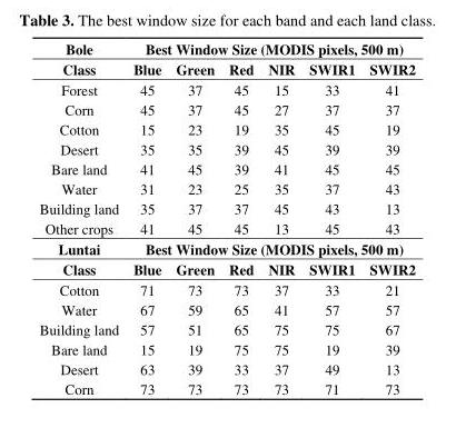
<table><thead><tr><td rowspan="2">Bole Class</td><td colspan="6">Best Window Size (MODIS pixels, 500 m)</td></tr><tr><td>Blue</td><td>Green</td><td>Red</td><td>NIR</td><td>SWIR1</td><td>SWIR2</td></tr></thead><tbody><tr><td>Forest</td><td>45</td><td>37</td><td>45</td><td>15</td><td>33</td><td>41</td></tr><tr><td>Corn</td><td>45</td><td>37</td><td>45</td><td>27</td><td>37</td><td>37</td></tr><tr><td>Cotton</td><td>15</td><td>23</td><td>19</td><td>35</td><td>45</td><td>19</td></tr><tr><td>Desert</td><td>35</td><td>35</td><td>39</td><td>45</td><td>39</td><td>39</td></tr><tr><td>Bare land</td><td>41</td><td>45</td><td>39</td><td>41</td><td>45</td><td>45</td></tr><tr><td>Water</td><td>31</td><td>23</td><td>25</td><td>35</td><td>37</td><td>43</td></tr><tr><td>Building land</td><td>35</td><td>37</td><td>37</td><td>45</td><td>43</td><td>13</td></tr><tr><td>Other crops</td><td>41</td><td>45</td><td>45</td><td>13</td><td>45</td><td>43</td></tr><tr><td>Luntai</td><td colspan="6">Best Window Size (MODIS pixels, 500 m)</td></tr><tr><td>Class</td><td>Blue</td><td>Green</td><td>Red</td><td>NIR</td><td>SWIR1</td><td>SWIR2</td></tr><tr><td>Cotton</td><td>71</td><td>73</td><td>73</td><td>37</td><td>33</td><td>21</td></tr><tr><td>Water</td><td>67</td><td>59</td><td>65</td><td>41</td><td>57</td><td>57</td></tr><tr><td>Building land</td><td>57</td><td>51</td><td>65</td><td>75</td><td>75</td><td>67</td></tr><tr><td>Bare land</td><td>15</td><td>19</td><td>75</td><td>75</td><td>19</td><td>39</td></tr><tr><td>Desert</td><td>63</td><td>39</td><td>33</td><td>37</td><td>49</td><td>13</td></tr><tr><td>Corn</td><td>73</td><td>73</td><td>73</td><td>73</td><td>71</td><td>73</td></tr></tbody></table>